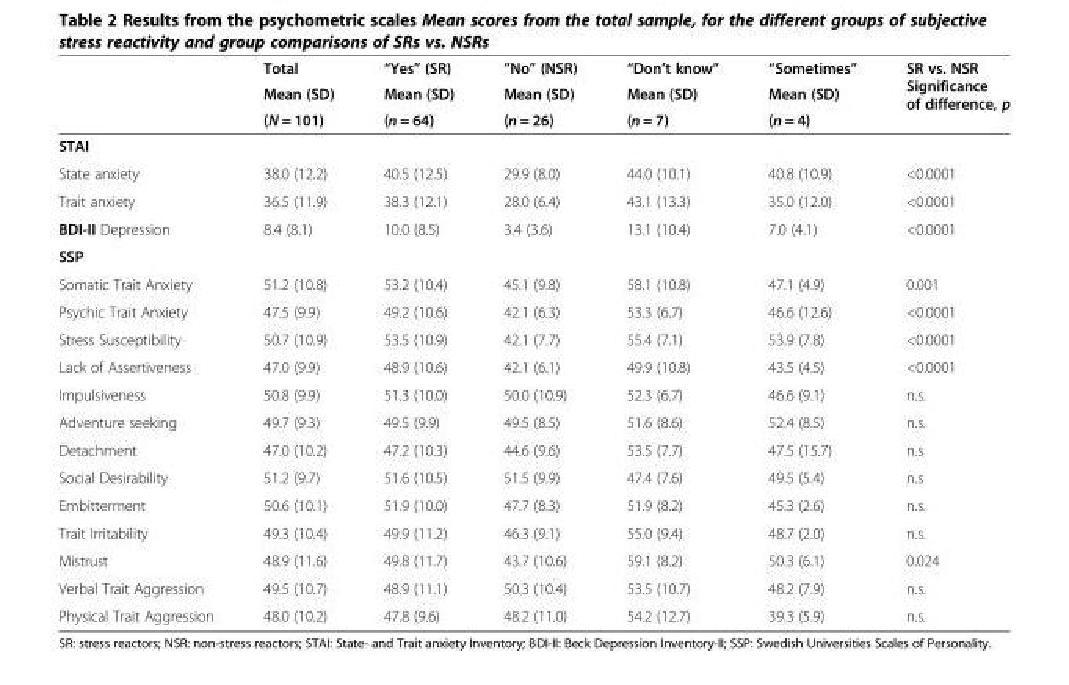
<table><thead><tr><td rowspan="3"></td><td rowspan="3">Total Mean (SD) (N = 101)</td><td rowspan="3">“Yes” (SR) Mean (SD) (n = 64)</td><td rowspan="3">”No” (NSR) Mean (SD) (n = 26)</td><td rowspan="3">“Don’t know” Mean (SD) (n = 7)</td><td rowspan="3">“Sometimes” Mean (SD) (n = 4)</td><td rowspan="3">SR vs. NSR Significance of difference, p</td></tr><tr></tr><tr></tr></thead><tbody><tr><td colspan="7">STAI</td></tr><tr><td>State anxiety</td><td>38.0 (12.2)</td><td>40.5 (12.5)</td><td>29.9 (8.0)</td><td>44.0 (10.1)</td><td>40.8 (10.9)</td><td>&lt;0.0001</td></tr><tr><td>Trait anxiety</td><td>36.5 (11.9)</td><td>38.3 (12.1)</td><td>28.0 (6.4)</td><td>43.1 (13.3)</td><td>35.0 (12.0)</td><td>&lt;0.0001</td></tr><tr><td>BDI-II Depression</td><td>8.4 (8.1)</td><td>10.0 (8.5)</td><td>3.4 (3.6)</td><td>13.1 (10.4)</td><td>7.0 (4.1)</td><td>&lt;0.0001</td></tr><tr><td colspan="7">SSP</td></tr><tr><td>Somatic Trait Anxiety</td><td>51.2 (10.8)</td><td>53.2 (10.4)</td><td>45.1 (9.8)</td><td>58.1 (10.8)</td><td>47.1 (4.9)</td><td>0.001</td></tr><tr><td>Psychic Trait Anxiety</td><td>47.5 (9.9)</td><td>49.2 (10.6)</td><td>42.1 (6.3)</td><td>53.3 (6.7)</td><td>46.6 (12.6)</td><td>&lt;0.0001</td></tr><tr><td>Stress Susceptibility</td><td>50.7 (10.9)</td><td>53.5 (10.9)</td><td>42.1 (7.7)</td><td>55.4 (7.1)</td><td>53.9 (7.8)</td><td>&lt;0.0001</td></tr><tr><td>Lack of Assertiveness</td><td>47.0 (9.9)</td><td>48.9 (10.6)</td><td>42.1 (6.1)</td><td>49.9 (10.8)</td><td>43.5 (4.5)</td><td>&lt;0.0001</td></tr><tr><td>Impulsiveness</td><td>50.8 (9.9)</td><td>51.3 (10.0)</td><td>50.0 (10.9)</td><td>52.3 (6.7)</td><td>46.6 (9.1)</td><td>n.s.</td></tr><tr><td>Adventure seeking</td><td>49.7 (9.3)</td><td>49.5 (9.9)</td><td>49.5 (8.5)</td><td>51.6 (8.6)</td><td>52.4 (8.5)</td><td>n.s.</td></tr><tr><td>Detachment</td><td>47.0 (10.2)</td><td>47.2 (10.3)</td><td>44.6 (9.6)</td><td>53.5 (7.7)</td><td>47.5 (15.7)</td><td>n.s</td></tr><tr><td>Social Desirability</td><td>51.2 (9.7)</td><td>51.6 (10.5)</td><td>51.5 (9.9)</td><td>47.4 (7.6)</td><td>49.5 (5.4)</td><td>n.s</td></tr><tr><td>Embitterment</td><td>50.6 (10.1)</td><td>51.9 (10.0)</td><td>47.7 (8.3)</td><td>51.9 (8.2)</td><td>45.3 (2.6)</td><td>n.s.</td></tr><tr><td>Trait Irritability</td><td>49.3 (10.4)</td><td>49.9 (11.2)</td><td>46.3 (9.1)</td><td>55.0 (9.4)</td><td>48.7 (2.0)</td><td>n.s.</td></tr><tr><td>Mistrust</td><td>48.9 (11.6)</td><td>49.8 (11.7)</td><td>43.7 (10.6)</td><td>59.1 (8.2)</td><td>50.3 (6.1)</td><td>0.024</td></tr><tr><td>Verbal Trait Aggression</td><td>49.5 (10.7)</td><td>48.9 (11.1)</td><td>50.3 (10.4)</td><td>53.5 (10.7)</td><td>48.2 (7.9)</td><td>n.s.</td></tr><tr><td>Physical Trait Aggression</td><td>48.0 (10.2)</td><td>47.8 (9.6)</td><td>48.2 (11.0)</td><td>54.2 (12.7)</td><td>39.3 (5.9)</td><td>n.s.</td></tr></tbody></table>